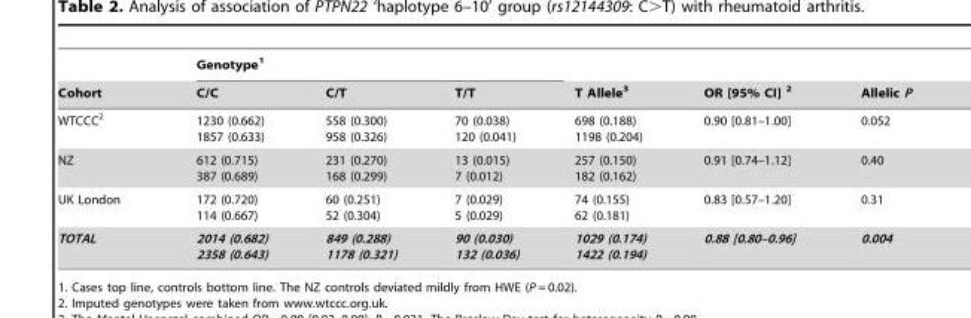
<table><thead><tr><td rowspan="2">Cohort</td><td colspan="3">Genotype<sup>1</sup></td><td rowspan="2">T Allele<sup>3</sup></td><td rowspan="2">OR [95% CI] <sup>2</sup></td><td rowspan="2">Allelic P</td></tr><tr><td>C/C</td><td>C/T</td><td>T/T</td></tr></thead><tbody><tr><td>WTCCC<sup>2</sup></td><td>1230 (0.662) 1857 (0.633)</td><td>558 (0.300) 958 (0.326)</td><td>70 (0.038) 120 (0.041)</td><td>698 (0.188) 1198 (0.204)</td><td>0.90 [0.81–1.00]</td><td>0.052</td></tr><tr><td>NZ</td><td>612 (0.715) 387 (0.689)</td><td>231 (0.270) 168 (0.299)</td><td>13 (0.015) 7 (0.012)</td><td>257 (0.150) 182 (0.162)</td><td>0.91 [0.74–1.12]</td><td>0.40</td></tr><tr><td>UK London</td><td>172 (0.720) 114 (0.667)</td><td>60 (0.251) 52 (0.304)</td><td>7 (0.029) 5 (0.029)</td><td>74 (0.155) 62 (0.181)</td><td>0.83 [0.57–1.20]</td><td>0.31</td></tr><tr><td>TOTAL</td><td>2014 (0.682) 2358 (0.643)</td><td>849 (0.288) 1178 (0.321)</td><td>90 (0.030) 132 (0.036)</td><td>1029 (0.174) 1422 (0.194)</td><td>0.88 [0.80–0.96]</td><td>0.004</td></tr></tbody></table>